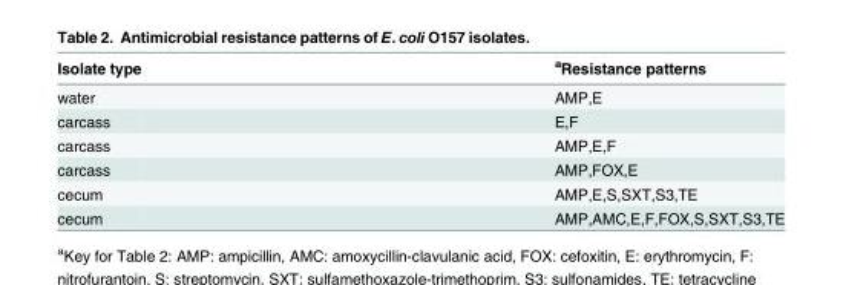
<table><thead><tr><td>Isolate type</td><td><sup>a</sup>Resistance patterns</td></tr></thead><tbody><tr><td>water</td><td>AMP,E</td></tr><tr><td>carcass</td><td>E,F</td></tr><tr><td>carcass</td><td>AMP,E,F</td></tr><tr><td>carcass</td><td>AMP,FOX,E</td></tr><tr><td>cecum</td><td>AMP,E,S,SXT,S3,TE</td></tr><tr><td>cecum</td><td>AMP,AMC,E,F,FOX,S,SXT,S3,TE</td></tr></tbody></table>